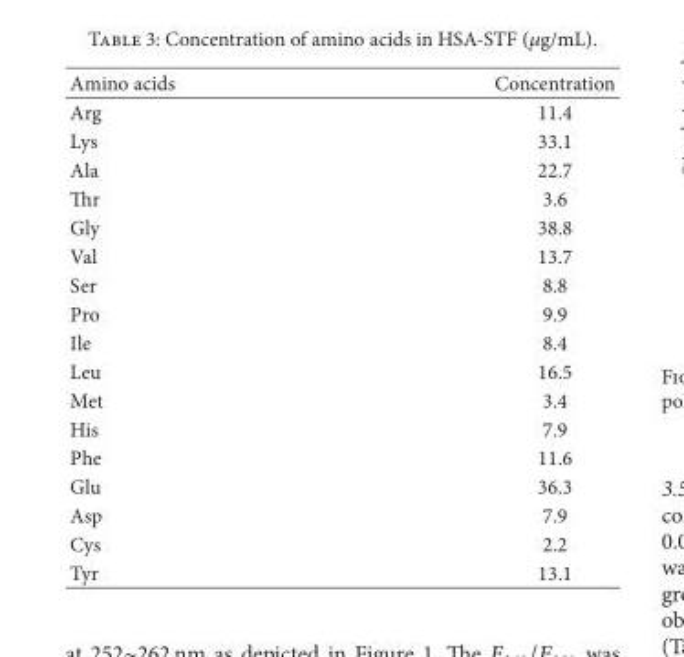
<table><thead><tr><td>Amino acids</td><td>Concentration</td></tr></thead><tbody><tr><td>Arg</td><td>11.4</td></tr><tr><td>Lys</td><td>33.1</td></tr><tr><td>Ala</td><td>22.7</td></tr><tr><td>r</td><td>3.6</td></tr><tr><td>Gly</td><td>38.8</td></tr><tr><td>Val</td><td>13.7</td></tr><tr><td>Ser</td><td>8.8</td></tr><tr><td>Pro</td><td>9.9</td></tr><tr><td>Ile</td><td>8.4</td></tr><tr><td>Leu</td><td>16.5</td></tr><tr><td>Met</td><td>3.4</td></tr><tr><td>His</td><td>7.9</td></tr><tr><td>Phe</td><td>11.6</td></tr><tr><td>Glu</td><td>36.3</td></tr><tr><td>Asp</td><td>7.9</td></tr><tr><td>Cys</td><td>2.2</td></tr><tr><td>Tyr</td><td>13.1</td></tr></tbody></table>